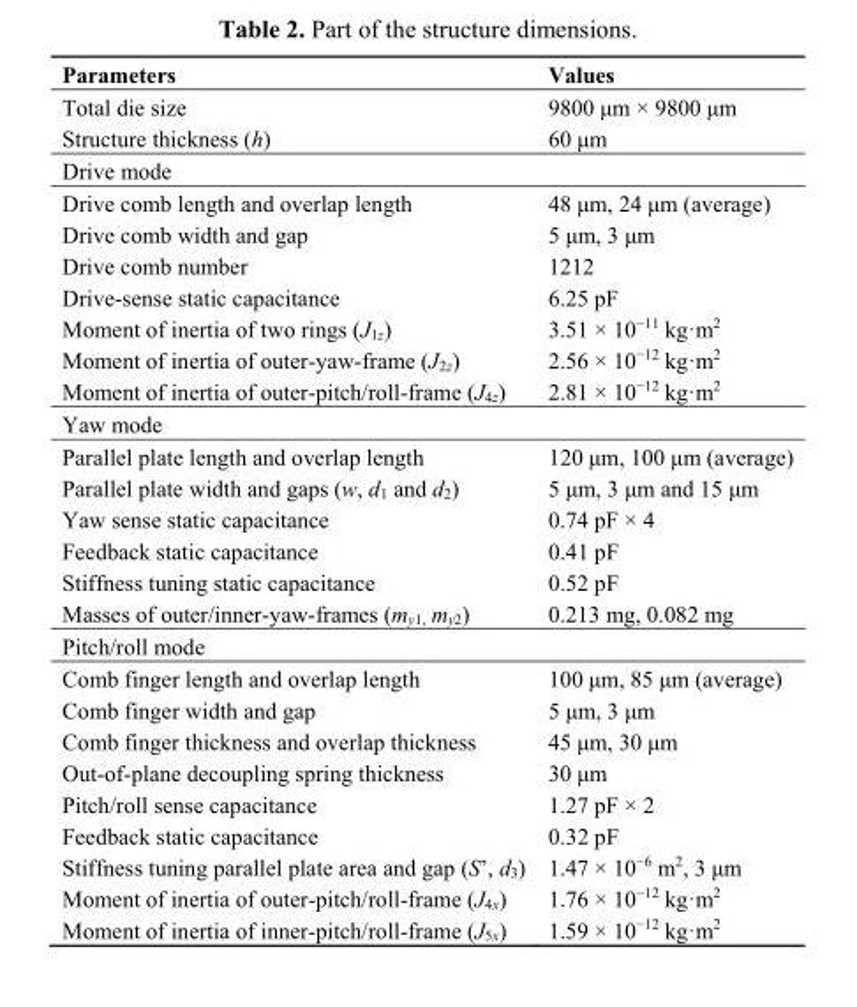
<table><thead><tr><td>Parameters</td><td>Values</td></tr></thead><tbody><tr><td>Total die size</td><td>9800 μm × 9800 μm</td></tr><tr><td>Structure thickness (h)</td><td>60 μm</td></tr><tr><td colspan="2">Drive mode</td></tr><tr><td>Drive comb length and overlap length</td><td>48 μm, 24 μm (average)</td></tr><tr><td>Drive comb width and gap</td><td>5 μm, 3 μm</td></tr><tr><td>Drive comb number</td><td>1212</td></tr><tr><td>Drive-sense static capacitance</td><td>6.25 pF</td></tr><tr><td>Moment of inertia of two rings (J<sub>1z</sub>)</td><td>3.51 × 10<sup>−11</sup> kg·m<sup>2</sup></td></tr><tr><td>Moment of inertia of outer-yaw-frame (J<sub>2z</sub>)</td><td>2.56 × 10<sup>−12</sup> kg·m<sup>2</sup></td></tr><tr><td>Moment of inertia of outer-pitch/roll-frame (J<sub>4z</sub>)</td><td>2.81 × 10<sup>−12</sup> kg·m<sup>2</sup></td></tr><tr><td colspan="2">Yaw mode</td></tr><tr><td>Parallel plate length and overlap length</td><td>120 μm, 100 μm (average)</td></tr><tr><td>Parallel plate width and gaps (w, d<sub>1</sub> and d<sub>2</sub>)</td><td>5 μm, 3 μm and 15 μm</td></tr><tr><td>Yaw sense static capacitance</td><td>0.74 pF × 4</td></tr><tr><td>Feedback static capacitance</td><td>0.41 pF</td></tr><tr><td>Stiffness tuning static capacitance</td><td>0.52 pF</td></tr><tr><td>Masses of outer/inner-yaw-frames (m<sub>y1,</sub> m<sub>y2</sub>)</td><td>0.213 mg, 0.082 mg</td></tr><tr><td colspan="2">Pitch/roll mode</td></tr><tr><td>Comb finger length and overlap length</td><td>100 μm, 85 μm (average)</td></tr><tr><td>Comb finger width and gap</td><td>5 μm, 3 μm</td></tr><tr><td>Comb finger thickness and overlap thickness</td><td>45 μm, 30 μm</td></tr><tr><td>Out-of-plane decoupling spring thickness</td><td>30 μm</td></tr><tr><td>Pitch/roll sense capacitance</td><td>1.27 pF × 2</td></tr><tr><td>Feedback static capacitance</td><td>0.32 pF</td></tr><tr><td>Stiffness tuning parallel plate area and gap (S’, d<sub>3</sub>)</td><td>1.47 × 10<sup>−6</sup> m<sup>2</sup>, 3 μm</td></tr><tr><td>Moment of inertia of outer-pitch/roll-frame (J<sub>4x</sub>)</td><td>1.76 × 10<sup>−12</sup> kg·m<sup>2</sup></td></tr><tr><td>Moment of inertia of inner-pitch/roll-frame (J<sub>5x</sub>)</td><td>1.59 × 10<sup>−12</sup> kg·m<sup>2</sup></td></tr></tbody></table>